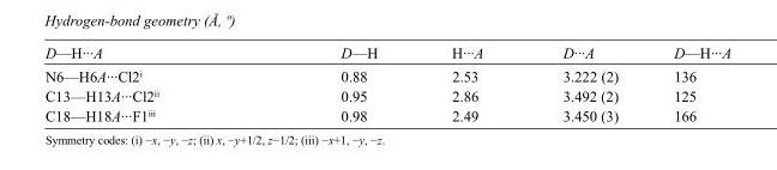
<table><tbody><tr><td>D—H···A</td><td>D—H</td><td>H···A</td><td>D···A</td><td>D—H···A</td></tr><tr><td>N6—H6A···Cl2<sup>i</sup></td><td>0.88</td><td>2.53</td><td>3.222 (2)</td><td>136</td></tr><tr><td>C13—H13A···Cl2<sup>ii</sup></td><td>0.95</td><td>2.86</td><td>3.492 (2)</td><td>125</td></tr><tr><td>C18—H18A···F1<sup>iii</sup></td><td>0.98</td><td>2.49</td><td>3.450 (3)</td><td>166</td></tr></tbody></table>